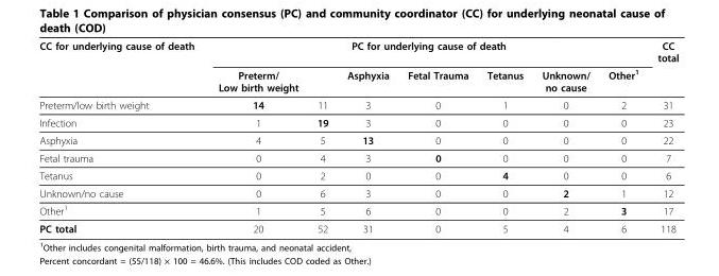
<table><thead><tr><td rowspan="2">CC for underlying cause of death</td><td colspan="7">PC for underlying cause of death</td><td rowspan="2">CC total</td></tr><tr><td>Preterm/ Low birth weight</td><td></td><td>Asphyxia</td><td>Fetal Trauma</td><td>Tetanus</td><td>Unknown/ no cause</td><td>Other<sup>1</sup></td></tr></thead><tbody><tr><td>Preterm/low birth weight</td><td>14</td><td>11</td><td>3</td><td>0</td><td>1</td><td>0</td><td>2</td><td>31</td></tr><tr><td>Infection</td><td>1</td><td>19</td><td>3</td><td>0</td><td>0</td><td>0</td><td>0</td><td>23</td></tr><tr><td>Asphyxia</td><td>4</td><td>5</td><td>13</td><td>0</td><td>0</td><td>0</td><td>0</td><td>22</td></tr><tr><td>Fetal trauma</td><td>0</td><td>4</td><td>3</td><td>0</td><td>0</td><td>0</td><td>0</td><td>7</td></tr><tr><td>Tetanus</td><td>0</td><td>2</td><td>0</td><td>0</td><td>4</td><td>0</td><td>0</td><td>6</td></tr><tr><td>Unknown/no cause</td><td>0</td><td>6</td><td>3</td><td>0</td><td>0</td><td>2</td><td>1</td><td>12</td></tr><tr><td>Other<sup>1</sup></td><td>1</td><td>5</td><td>6</td><td>0</td><td>0</td><td>2</td><td>3</td><td>17</td></tr><tr><td>PC total</td><td>20</td><td>52</td><td>31</td><td>0</td><td>5</td><td>4</td><td>6</td><td>118</td></tr></tbody></table>